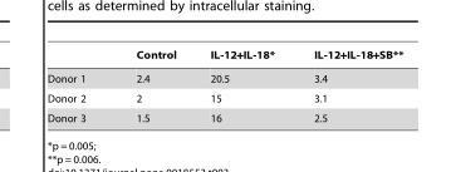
<table><thead><tr><td></td><td>Control</td><td>IL-12+IL-18*</td><td>IL-12+IL-18+SB**</td></tr></thead><tbody><tr><td>Donor 1</td><td>2.4</td><td>20.5</td><td>3.4</td></tr><tr><td>Donor 2</td><td>2</td><td>15</td><td>3.1</td></tr><tr><td>Donor 3</td><td>1.5</td><td>16</td><td>2.5</td></tr></tbody></table>